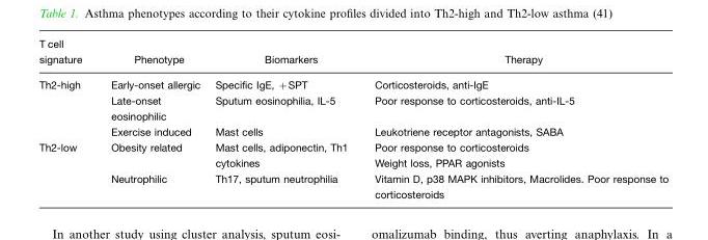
<table><thead><tr><td>T cell signature</td><td>Phenotype</td><td>Biomarkers</td><td>Therapy</td></tr></thead><tbody><tr><td rowspan="3">Th2-high</td><td>Early-onset allergic</td><td>Specific IgE, +SPT</td><td>Corticosteroids, anti-IgE</td></tr><tr><td>Late-onset eosinophilic</td><td>Sputum eosinophilia, IL-5</td><td>Poor response to corticosteroids, anti-IL-5</td></tr><tr><td>Exercise induced</td><td>Mast cells</td><td>Leukotriene receptor antagonists, SABA</td></tr><tr><td rowspan="2">Th2-low</td><td>Obesity related</td><td>Mast cells, adiponectin, Th1 cytokines</td><td>Poor response to corticosteroids Weight loss, PPAR agonists</td></tr><tr><td>Neutrophilic</td><td>Th17, sputum neutrophilia</td><td>Vitamin D, p38 MAPK inhibitors, Macrolides. Poor response to corticosteroids</td></tr></tbody></table>